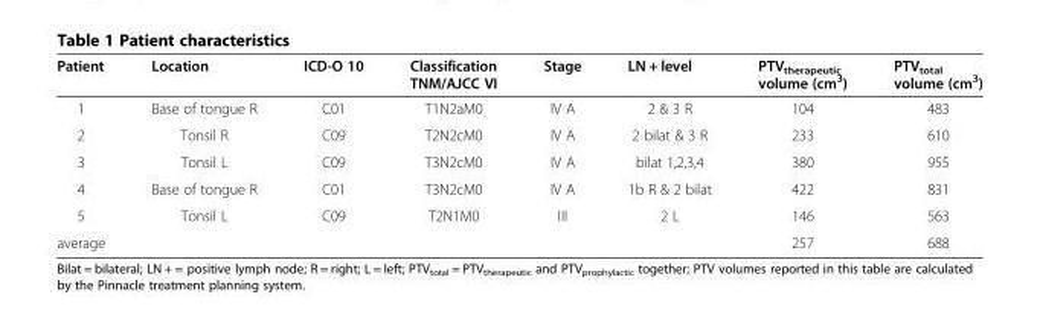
<table><thead><tr><td>Patient</td><td>Location</td><td>ICD-O 10</td><td>Classification TNM/AJCC VI</td><td>Stage</td><td>LN + level</td><td>PTV<sub>therapeutic</sub> volume (cm<sup>3</sup>)</td><td>PTV<sub>total</sub> volume (cm<sup>3</sup>)</td></tr></thead><tbody><tr><td>1</td><td>Base of tongue R</td><td>C01</td><td>T1N2aM0</td><td>IV A</td><td>2 &amp; 3 R</td><td>104</td><td>483</td></tr><tr><td>2</td><td>Tonsil R</td><td>C09</td><td>T2N2cM0</td><td>IV A</td><td>2 bilat &amp; 3 R</td><td>233</td><td>610</td></tr><tr><td>3</td><td>Tonsil L</td><td>C09</td><td>T3N2cM0</td><td>IV A</td><td>bilat 1,2,3,4</td><td>380</td><td>955</td></tr><tr><td>4</td><td>Base of tongue R</td><td>C01</td><td>T3N2cM0</td><td>IV A</td><td>1b R &amp; 2 bilat</td><td>422</td><td>831</td></tr><tr><td>5</td><td>Tonsil L</td><td>C09</td><td>T2N1M0</td><td>III</td><td>2 L</td><td>146</td><td>563</td></tr><tr><td>average</td><td></td><td></td><td></td><td></td><td></td><td>257</td><td>688</td></tr></tbody></table>